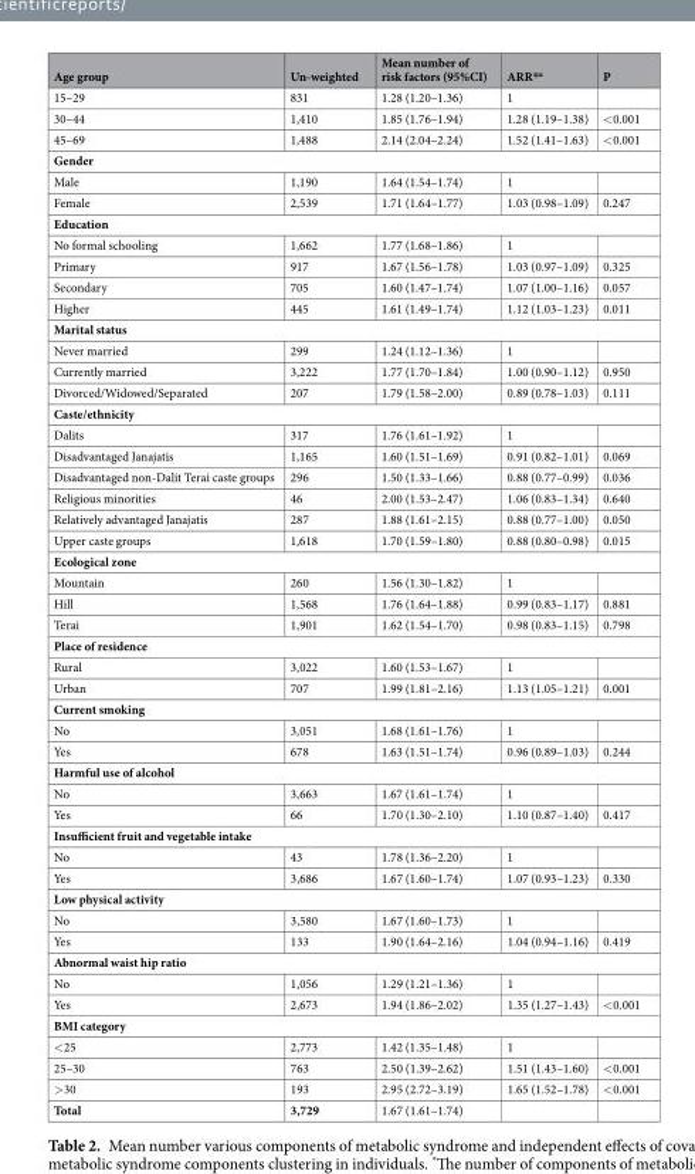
<table><thead><tr><td>Age group</td><td>Un-weighted</td><td>Mean number of risk factors (95%CI)</td><td>ARR*<sup>a</sup></td><td>P</td></tr></thead><tbody><tr><td>15–29</td><td>831</td><td>1.28 (1.20–1.36)</td><td>1</td><td></td></tr><tr><td>30–44</td><td>1,410</td><td>1.85 (1.76–1.94)</td><td>1.28 (1.19–1.38)</td><td>&lt;0.001</td></tr><tr><td>45–69</td><td>1,488</td><td>2.14 (2.04–2.24)</td><td>1.52 (1.41–1.63)</td><td>&lt;0.001</td></tr><tr><td colspan="5">Gender</td></tr><tr><td>Male</td><td>1,190</td><td>1.64 (1.54–1.74)</td><td>1</td><td></td></tr><tr><td>Female</td><td>2,539</td><td>1.71 (1.64–1.77)</td><td>1.03 (0.98–1.09)</td><td>0.247</td></tr><tr><td colspan="5">Education</td></tr><tr><td>No formal schooling</td><td>1,662</td><td>1.77 (1.68–1.86)</td><td>1</td><td></td></tr><tr><td>Primary</td><td>917</td><td>1.67 (1.56–1.78)</td><td>1.03 (0.97–1.09)</td><td>0.325</td></tr><tr><td>Secondary</td><td>705</td><td>1.60 (1.47–1.74)</td><td>1.07 (1.00–1.16)</td><td>0.057</td></tr><tr><td>Higher</td><td>445</td><td>1.61 (1.49–1.74)</td><td>1.12 (1.03–1.23)</td><td>0.011</td></tr><tr><td colspan="5">Marital status</td></tr><tr><td>Never married</td><td>299</td><td>1.24 (1.12–1.36)</td><td>1</td><td></td></tr><tr><td>Currently married</td><td>3,222</td><td>1.77 (1.70–1.84)</td><td>1.00 (0.90–1.12)</td><td>0.950</td></tr><tr><td>Divorced/Widowed/Separated</td><td>207</td><td>1.79 (1.58–2.00)</td><td>0.89 (0.78–1.03)</td><td>0.111</td></tr><tr><td colspan="5">Caste/ethnicity</td></tr><tr><td>Dalits</td><td>317</td><td>1.76 (1.61–1.92)</td><td>1</td><td></td></tr><tr><td>Disadvantaged Janajatis</td><td>1,165</td><td>1.60 (1.51–1.69)</td><td>0.91 (0.82–1.01)</td><td>0.069</td></tr><tr><td>Disadvantaged non-Dalit Terai caste groups</td><td>296</td><td>1.50 (1.33–1.66)</td><td>0.88 (0.77–0.99)</td><td>0.036</td></tr><tr><td>Religious minorities</td><td>46</td><td>2.00 (1.53–2.47)</td><td>1.06 (0.83–1.34)</td><td>0.640</td></tr><tr><td>Relatively advantaged Janajatis</td><td>287</td><td>1.88 (1.61–2.15)</td><td>0.88 (0.77–1.00)</td><td>0.050</td></tr><tr><td>Upper caste groups</td><td>1,618</td><td>1.70 (1.59–1.80)</td><td>0.88 (0.80–0.98)</td><td>0.015</td></tr><tr><td colspan="5">Ecological zone</td></tr><tr><td>Mountain</td><td>260</td><td>1.56 (1.30–1.82)</td><td>1</td><td></td></tr><tr><td>Hill</td><td>1,568</td><td>1.76 (1.64–1.88)</td><td>0.99 (0.83–1.17)</td><td>0.881</td></tr><tr><td>Terai</td><td>1,901</td><td>1.62 (1.54–1.70)</td><td>0.98 (0.83–1.15)</td><td>0.798</td></tr><tr><td colspan="5">Place of residence</td></tr><tr><td>Rural</td><td>3,022</td><td>1.60 (1.53–1.67)</td><td>1</td><td></td></tr><tr><td>Urban</td><td>707</td><td>1.99 (1.81–2.16)</td><td>1.13 (1.05–1.21)</td><td>0.001</td></tr><tr><td colspan="5">Current smoking</td></tr><tr><td>No</td><td>3,051</td><td>1.68 (1.61–1.76)</td><td>1</td><td></td></tr><tr><td>Yes</td><td>678</td><td>1.63 (1.51–1.74)</td><td>0.96 (0.89–1.03)</td><td>0.244</td></tr><tr><td colspan="5">Harmful use of alcohol</td></tr><tr><td>No</td><td>3,663</td><td>1.67 (1.61–1.74)</td><td>1</td><td></td></tr><tr><td>Yes</td><td>66</td><td>1.70 (1.30–2.10)</td><td>1.10 (0.87–1.40)</td><td>0.417</td></tr><tr><td colspan="5">Insufficient fruit and vegetable intake</td></tr><tr><td>No</td><td>43</td><td>1.78 (1.36–2.20)</td><td>1</td><td></td></tr><tr><td>Yes</td><td>3,686</td><td>1.67 (1.60–1.74)</td><td>1.07 (0.93–1.23)</td><td>0.330</td></tr><tr><td colspan="5">Low physical activity</td></tr><tr><td>No</td><td>3,580</td><td>1.67 (1.60–1.73)</td><td>1</td><td></td></tr><tr><td>Yes</td><td>133</td><td>1.90 (1.64–2.16)</td><td>1.04 (0.94–1.16)</td><td>0.419</td></tr><tr><td colspan="5">Abnormal waist hip ratio</td></tr><tr><td>No</td><td>1,056</td><td>1.29 (1.21–1.36)</td><td>1</td><td></td></tr><tr><td>Yes</td><td>2,673</td><td>1.94 (1.86–2.02)</td><td>1.35 (1.27–1.43)</td><td>&lt;0.001</td></tr><tr><td colspan="5">BMI category</td></tr><tr><td>&lt;25</td><td>2,773</td><td>1.42 (1.35–1.48)</td><td>1</td><td></td></tr><tr><td>25–30</td><td>763</td><td>2.50 (1.39–2.62)</td><td>1.51 (1.43–1.60)</td><td>&lt;0.001</td></tr><tr><td>&gt;30</td><td>193</td><td>2.95 (2.72–3.19)</td><td>1.65 (1.52–1.78)</td><td>&lt;0.001</td></tr><tr><td>Total</td><td>3,729</td><td>1.67 (1.61–1.74)</td><td></td><td></td></tr></tbody></table>